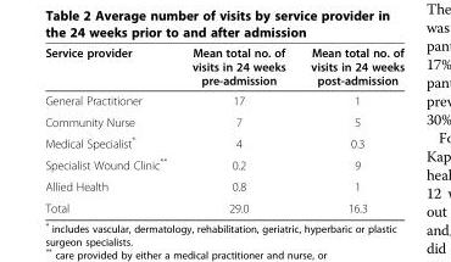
<table><thead><tr><td>Service provider</td><td>Mean total no. of visits in 24 weeks pre-admission</td><td>Mean total no. of visits in 24 weeks post-admission</td></tr></thead><tbody><tr><td>General Practitioner</td><td>17</td><td>1</td></tr><tr><td>Community Nurse</td><td>7</td><td>5</td></tr><tr><td>Medical Specialist*</td><td>4</td><td>0.3</td></tr><tr><td>Specialist Wound Clinic**</td><td>0.2</td><td>9</td></tr><tr><td>Allied Health</td><td>0.8</td><td>1</td></tr><tr><td>Total</td><td>29.0</td><td>16.3</td></tr></tbody></table>